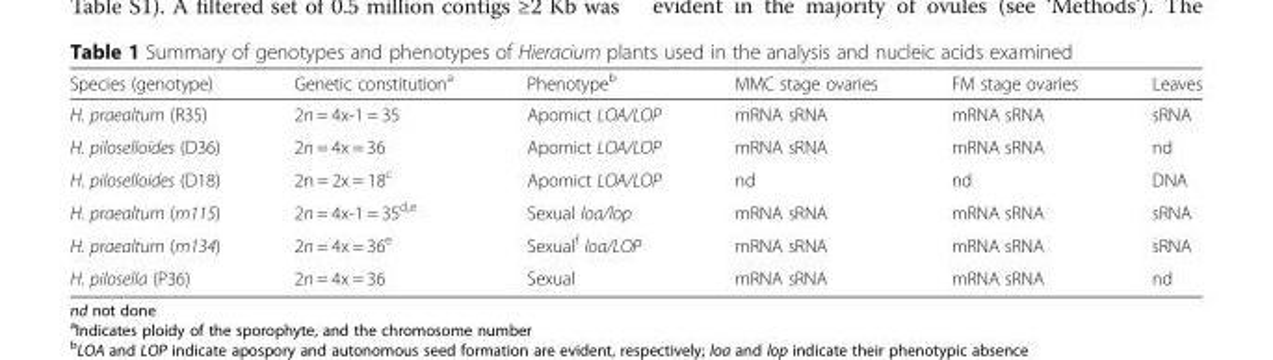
<table><thead><tr><td>Species (genotype)</td><td>Genetic constitution<sup>a</sup></td><td>Phenotype<sup>b</sup></td><td>MMC stage ovaries</td><td>FM stage ovaries</td><td>Leaves</td></tr></thead><tbody><tr><td>H. praealtum (R35)</td><td>2n = 4x-1 = 35</td><td>Apomict LOA/LOP</td><td>mRNA sRNA</td><td>mRNA sRNA</td><td>sRNA</td></tr><tr><td>H. piloselloides (D36)</td><td>2n = 4x = 36</td><td>Apomict LOA/LOP</td><td>mRNA sRNA</td><td>mRNA sRNA</td><td>nd</td></tr><tr><td>H. piloselloides (D18)</td><td>2n = 2x = 18<sup>c</sup></td><td>Apomict LOA/LOP</td><td>nd</td><td>nd</td><td>DNA</td></tr><tr><td>H. praealtum (m115)</td><td>2n = 4x-1 = 35<sup>d,e</sup></td><td>Sexual loa/lop</td><td>mRNA sRNA</td><td>mRNA sRNA</td><td>sRNA</td></tr><tr><td>H. praealtum (m134)</td><td>2n = 4x = 36<sup>e</sup></td><td>Sexual<sup>f</sup> loa/LOP</td><td>mRNA sRNA</td><td>mRNA sRNA</td><td>sRNA</td></tr><tr><td>H. pilosella (P36)</td><td>2n = 4x = 36</td><td>Sexual</td><td>mRNA sRNA</td><td>mRNA sRNA</td><td>nd</td></tr></tbody></table>